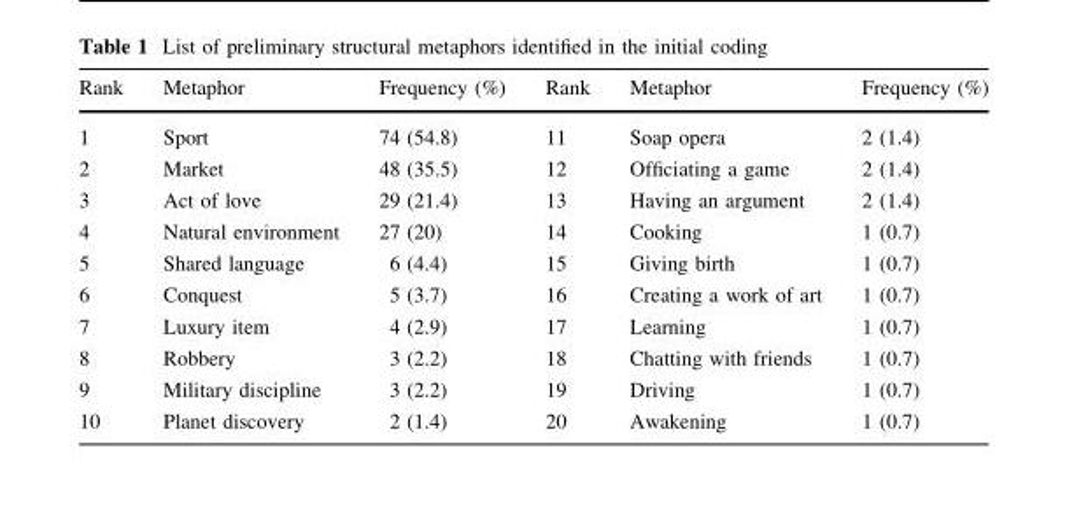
<table><thead><tr><td>Rank</td><td>Metaphor</td><td>Frequency (%)</td><td>Rank</td><td>Metaphor</td><td>Frequency (%)</td></tr></thead><tbody><tr><td>1</td><td>Sport</td><td>74 (54.8)</td><td>11</td><td>Soap opera</td><td>2 (1.4)</td></tr><tr><td>2</td><td>Market</td><td>48 (35.5)</td><td>12</td><td>Officiating a game</td><td>2 (1.4)</td></tr><tr><td>3</td><td>Act of love</td><td>29 (21.4)</td><td>13</td><td>Having an argument</td><td>2 (1.4)</td></tr><tr><td>4</td><td>Natural environment</td><td>27 (20)</td><td>14</td><td>Cooking</td><td>1 (0.7)</td></tr><tr><td>5</td><td>Shared language</td><td>6 (4.4)</td><td>15</td><td>Giving birth</td><td>1 (0.7)</td></tr><tr><td>6</td><td>Conquest</td><td>5 (3.7)</td><td>16</td><td>Creating a work of art</td><td>1 (0.7)</td></tr><tr><td>7</td><td>Luxury item</td><td>4 (2.9)</td><td>17</td><td>Learning</td><td>1 (0.7)</td></tr><tr><td>8</td><td>Robbery</td><td>3 (2.2)</td><td>18</td><td>Chatting with friends</td><td>1 (0.7)</td></tr><tr><td>9</td><td>Military discipline</td><td>3 (2.2)</td><td>19</td><td>Driving</td><td>1 (0.7)</td></tr><tr><td>10</td><td>Planet discovery</td><td>2 (1.4)</td><td>20</td><td>Awakening</td><td>1 (0.7)</td></tr></tbody></table>